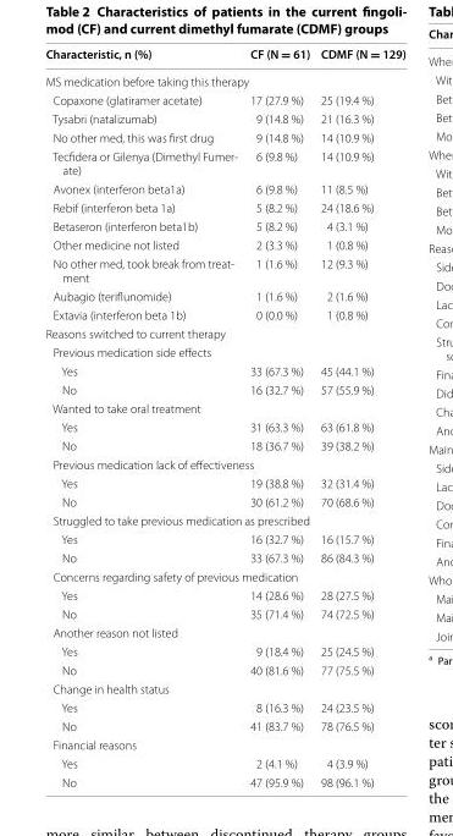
<table><thead><tr><td>Characteristic, n (%)</td><td>CF (N = 61)</td><td>CDMF (N = 129)</td></tr></thead><tbody><tr><td colspan="3">MS medication before taking this therapy</td></tr><tr><td>Copaxone (glatiramer acetate)</td><td>17 (27.9 %)</td><td>25 (19.4 %)</td></tr><tr><td>Tysabri (natalizumab)</td><td>9 (14.8 %)</td><td>21 (16.3 %)</td></tr><tr><td>No other med, this was first drug</td><td>9 (14.8 %)</td><td>14 (10.9 %)</td></tr><tr><td>Tecfidera or Gilenya (Dimethyl Fumer- ate)</td><td>6 (9.8 %)</td><td>14 (10.9 %)</td></tr><tr><td>Avonex (interferon beta1a)</td><td>6 (9.8 %)</td><td>11 (8.5 %)</td></tr><tr><td>Rebif (interferon beta 1a)</td><td>5 (8.2 %)</td><td>24 (18.6 %)</td></tr><tr><td>Betaseron (interferon beta1b)</td><td>5 (8.2 %)</td><td>4 (3.1 %)</td></tr><tr><td>Other medicine not listed</td><td>2 (3.3 %)</td><td>1 (0.8 %)</td></tr><tr><td>No other med, took break from treat- ment</td><td>1 (1.6 %)</td><td>12 (9.3 %)</td></tr><tr><td>Aubagio (teriflunomide)</td><td>1 (1.6 %)</td><td>2 (1.6 %)</td></tr><tr><td>Extavia (interferon beta 1b)</td><td>0 (0.0 %)</td><td>1 (0.8 %)</td></tr><tr><td colspan="3">Reasons switched to current therapy</td></tr><tr><td colspan="3">Previous medication side effects</td></tr><tr><td>Yes</td><td>33 (67.3 %)</td><td>45 (44.1 %)</td></tr><tr><td>No</td><td>16 (32.7 %)</td><td>57 (55.9 %)</td></tr><tr><td colspan="3">Wanted to take oral treatment</td></tr><tr><td>Yes</td><td>31 (63.3 %)</td><td>63 (61.8 %)</td></tr><tr><td>No</td><td>18 (36.7 %)</td><td>39 (38.2 %)</td></tr><tr><td colspan="3">Previous medication lack of effectiveness</td></tr><tr><td>Yes</td><td>19 (38.8 %)</td><td>32 (31.4 %)</td></tr><tr><td>No</td><td>30 (61.2 %)</td><td>70 (68.6 %)</td></tr><tr><td colspan="3">Struggled to take previous medication as prescribed</td></tr><tr><td>Yes</td><td>16 (32.7 %)</td><td>16 (15.7 %)</td></tr><tr><td>No</td><td>33 (67.3 %)</td><td>86 (84.3 %)</td></tr><tr><td colspan="3">Concerns regarding safety of previous medication</td></tr><tr><td>Yes</td><td>14 (28.6 %)</td><td>28 (27.5 %)</td></tr><tr><td>No</td><td>35 (71.4 %)</td><td>74 (72.5 %)</td></tr><tr><td colspan="3">Another reason not listed</td></tr><tr><td>Yes</td><td>9 (18.4 %)</td><td>25 (24.5 %)</td></tr><tr><td>No</td><td>40 (81.6 %)</td><td>77 (75.5 %)</td></tr><tr><td colspan="3">Change in health status</td></tr><tr><td>Yes</td><td>8 (16.3 %)</td><td>24 (23.5 %)</td></tr><tr><td>No</td><td>41 (83.7 %)</td><td>78 (76.5 %)</td></tr><tr><td colspan="3">Financial reasons</td></tr><tr><td>Yes</td><td>2 (4.1 %)</td><td>4 (3.9 %)</td></tr><tr><td>No</td><td>47 (95.9 %)</td><td>98 (96.1 %)</td></tr></tbody></table>